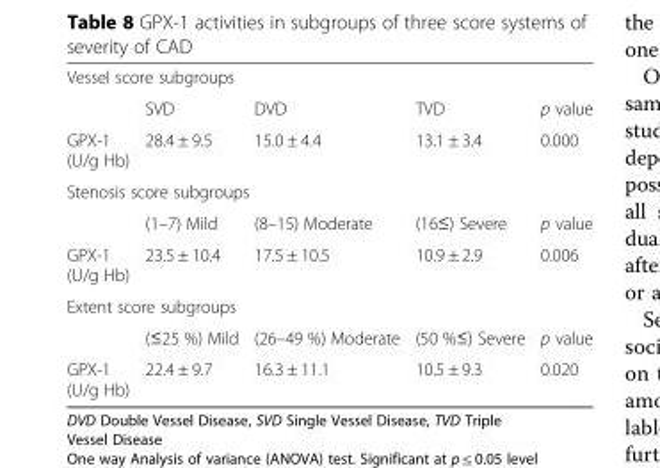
<table><tbody><tr><td colspan="5">Vessel score subgroups</td></tr><tr><td></td><td>SVD</td><td>DVD</td><td>TVD</td><td>p value</td></tr><tr><td>GPX-1 (U/g Hb)</td><td>28.4 ± 9.5</td><td>15.0 ± 4.4</td><td>13.1 ± 3.4</td><td>0.000</td></tr><tr><td colspan="5">Stenosis score subgroups</td></tr><tr><td></td><td>(1–7) Mild</td><td>(8–15) Moderate</td><td>(16≤) Severe</td><td>p value</td></tr><tr><td>GPX-1 (U/g Hb)</td><td>23.5 ± 10.4</td><td>17.5 ± 10.5</td><td>10.9 ± 2.9</td><td>0.006</td></tr><tr><td colspan="5">Extent score subgroups</td></tr><tr><td></td><td>(≤25 %) Mild</td><td>(26–49 %) Moderate</td><td>(50 %≤) Severe</td><td>p value</td></tr><tr><td>GPX-1 (U/g Hb)</td><td>22.4 ± 9.7</td><td>16.3 ± 11.1</td><td>10.5 ± 9.3</td><td>0.020</td></tr></tbody></table>